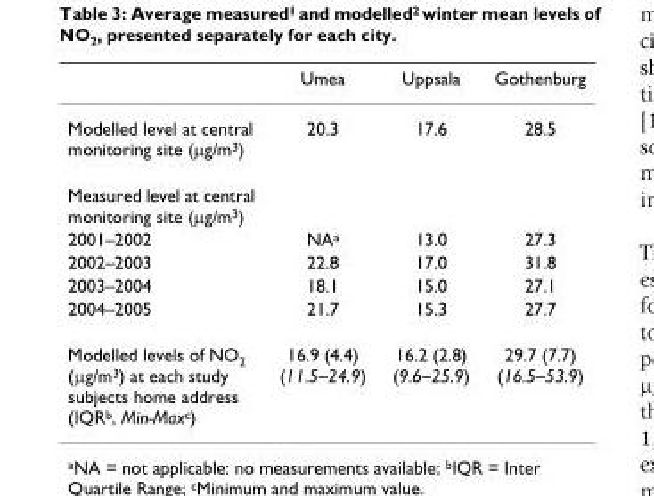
<table><thead><tr><td></td><td>Umea</td><td>Uppsala</td><td>Gothenburg</td></tr></thead><tbody><tr><td>Modelled level at central monitoring site (µg/m<sup>3</sup>)</td><td>20.3</td><td>17.6</td><td>28.5</td></tr><tr><td colspan="4">Measured level at central monitoring site (µg/m<sup>3</sup>)</td></tr><tr><td>2001–2002</td><td>NA<sup>a</sup></td><td>13.0</td><td>27.3</td></tr><tr><td>2002–2003</td><td>22.8</td><td>17.0</td><td>31.8</td></tr><tr><td>2003–2004</td><td>18.1</td><td>15.0</td><td>27.1</td></tr><tr><td>2004–2005</td><td>21.7</td><td>15.3</td><td>27.7</td></tr><tr><td>Modelled levels of NO<sub>2</sub> (µg/m<sup>3</sup>) at each study subjects home address (IQR<sup>b</sup>, Min-Max<sup>c</sup>)</td><td>16.9 (4.4) (11.5–24.9)</td><td>16.2 (2.8) (9.6–25.9)</td><td>29.7 (7.7) (16.5–53.9)</td></tr></tbody></table>